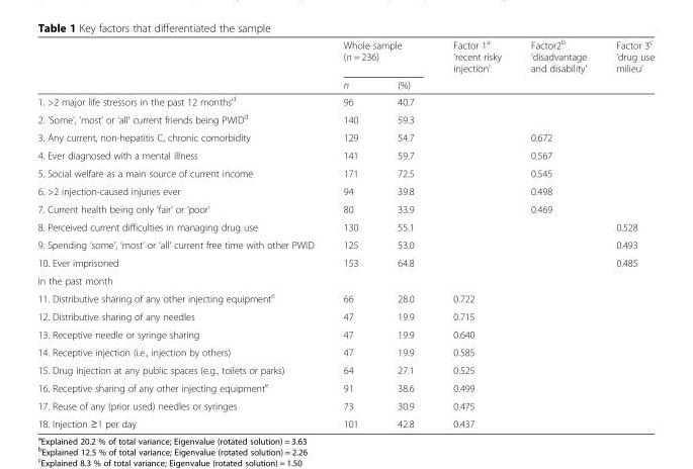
<table><thead><tr><td rowspan="2"></td><td colspan="2">Whole sample (n = 236)</td><td rowspan="2">Factor 1<sup>a</sup> ‘recent risky injection’</td><td rowspan="2">Factor2<sup>b</sup> ‘disadvantage and disability’</td><td rowspan="2">Factor 3<sup>c</sup> ‘drug use milieu’</td></tr><tr><td>n</td><td>(%)</td></tr></thead><tbody><tr><td>1. &gt;2 major life stressors in the past 12 months<sup>d</sup></td><td>96</td><td>40.7</td><td></td><td></td><td></td></tr><tr><td>2. ‘Some’, ‘most’ or ‘all’ current friends being PWID<sup>d</sup></td><td>140</td><td>59.3</td><td></td><td></td><td></td></tr><tr><td>3. Any current, non-hepatitis C, chronic comorbidity</td><td>129</td><td>54.7</td><td></td><td>0.672</td><td></td></tr><tr><td>4. Ever diagnosed with a mental illness</td><td>141</td><td>59.7</td><td></td><td>0.567</td><td></td></tr><tr><td>5. Social welfare as a main source of current income</td><td>171</td><td>72.5</td><td></td><td>0.545</td><td></td></tr><tr><td>6. &gt;2 injection-caused injuries ever</td><td>94</td><td>39.8</td><td></td><td>0.498</td><td></td></tr><tr><td>7. Current health being only ‘fair’ or ‘poor’</td><td>80</td><td>33.9</td><td></td><td>0.469</td><td></td></tr><tr><td>8. Perceived current difficulties in managing drug use</td><td>130</td><td>55.1</td><td></td><td></td><td>0.528</td></tr><tr><td>9. Spending ‘some’, ‘most’ or ‘all’ current free time with other PWID</td><td>125</td><td>53.0</td><td></td><td></td><td>0.493</td></tr><tr><td>10. Ever imprisoned</td><td>153</td><td>64.8</td><td></td><td></td><td>0.485</td></tr><tr><td colspan="6">In the past month</td></tr><tr><td>11. Distributive sharing of any other injecting equipment<sup>e</sup></td><td>66</td><td>28.0</td><td>0.722</td><td></td><td></td></tr><tr><td>12. Distributive sharing of any needles</td><td>47</td><td>19.9</td><td>0.715</td><td></td><td></td></tr><tr><td>13. Receptive needle or syringe sharing</td><td>47</td><td>19.9</td><td>0.640</td><td></td><td></td></tr><tr><td>14. Receptive injection (i.e., injection by others)</td><td>47</td><td>19.9</td><td>0.585</td><td></td><td></td></tr><tr><td>15. Drug injection at any public spaces (e.g., toilets or parks)</td><td>64</td><td>27.1</td><td>0.525</td><td></td><td></td></tr><tr><td>16. Receptive sharing of any other injecting equipment<sup>e</sup></td><td>91</td><td>38.6</td><td>0.499</td><td></td><td></td></tr><tr><td>17. Reuse of any (prior used) needles or syringes</td><td>73</td><td>30.9</td><td>0.475</td><td></td><td></td></tr><tr><td>18. Injection ≥1 per day</td><td>101</td><td>42.8</td><td>0.437</td><td></td><td></td></tr></tbody></table>